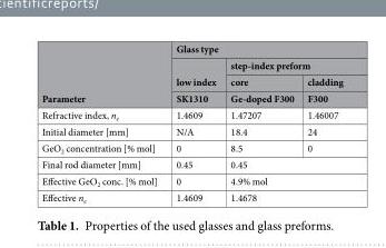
<table><thead><tr><td rowspan="4">Parameter</td><td colspan="3">Glass type</td></tr><tr><td rowspan="3">low index SK1310</td><td colspan="2">step-index preform</td></tr><tr><td rowspan="2">core Ge-doped F300</td><td rowspan="2">cladding F300</td></tr><tr></tr></thead><tbody><tr><td>Refractive index, n<sub>e</sub></td><td>1.4609</td><td>1.47207</td><td>1.46007</td></tr><tr><td>Initial diameter [mm]</td><td>N/A</td><td>18.4</td><td>24</td></tr><tr><td>GeO<sub>2</sub> concentration [% mol]</td><td>0</td><td>8.5</td><td>0</td></tr><tr><td>Final rod diameter [mm]</td><td>0.45</td><td colspan="2">0.45</td></tr><tr><td>Effective GeO<sub>2</sub> conc. [% mol]</td><td>0</td><td colspan="2">4.9% mol</td></tr><tr><td>Effective n<sub>e</sub></td><td>1.4609</td><td colspan="2">1.4678</td></tr></tbody></table>